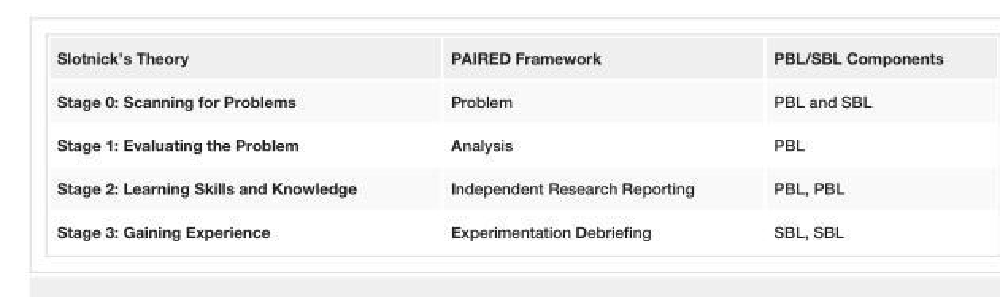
<table><tbody><tr><td>Slotnick’s Theory</td><td>PAIRED Framework</td><td>PBL/SBL Components</td></tr><tr><td>Stage 0: Scanning for Problems</td><td>Problem</td><td>PBL and SBL</td></tr><tr><td>Stage 1: Evaluating the Problem</td><td>Analysis</td><td>PBL</td></tr><tr><td>Stage 2: Learning Skills and Knowledge</td><td>Independent Research Reporting</td><td>PBL, PBL</td></tr><tr><td>Stage 3: Gaining Experience</td><td>Experimentation Debriefing</td><td>SBL, SBL</td></tr></tbody></table>